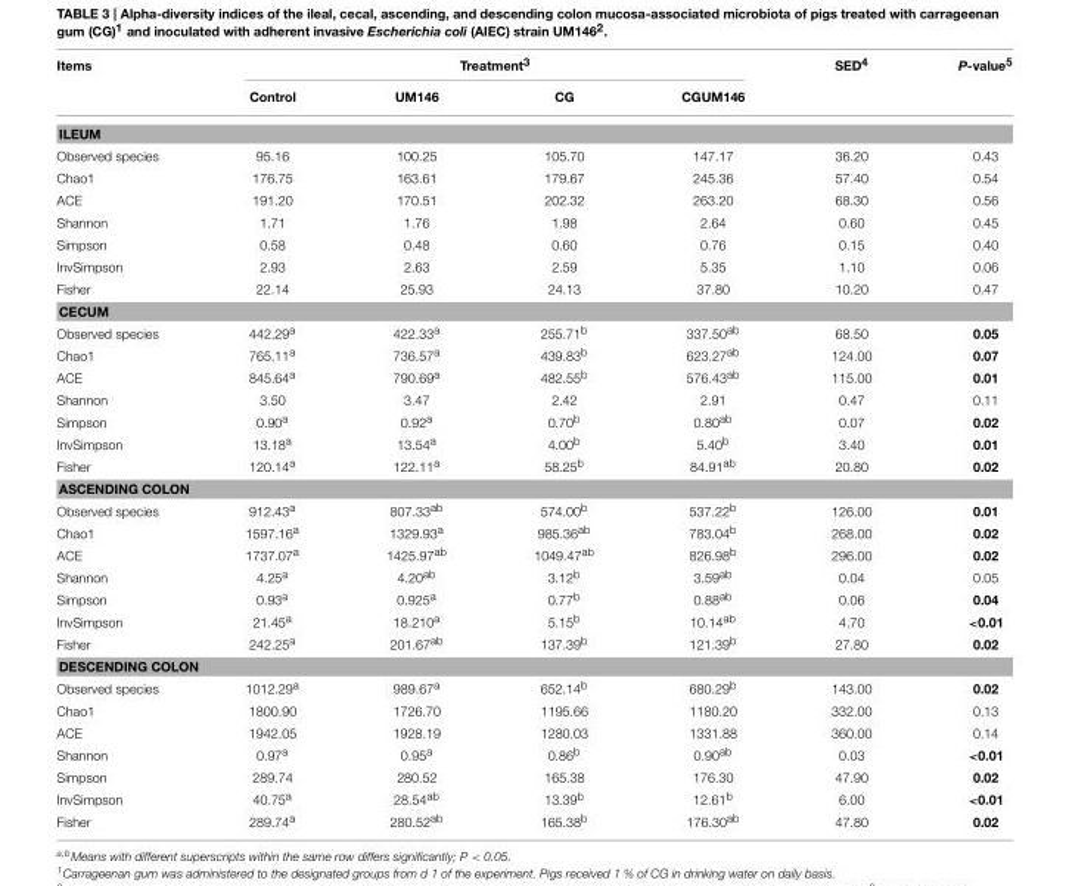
<table><thead><tr><td rowspan="2">Items</td><td colspan="4">Treatment<sup>3</sup></td><td rowspan="2">SED<sup>4</sup></td><td rowspan="2">P-value<sup>5</sup></td></tr><tr><td>Control</td><td>UM146</td><td>CG</td><td>CGUM146</td></tr></thead><tbody><tr><td colspan="7">ILEUM</td></tr><tr><td>Observed species</td><td>95.16</td><td>100.25</td><td>105.70</td><td>147.17</td><td>36.20</td><td>0.43</td></tr><tr><td>Chao1</td><td>176.75</td><td>163.61</td><td>179.67</td><td>245.36</td><td>57.40</td><td>0.54</td></tr><tr><td>ACE</td><td>191.20</td><td>170.51</td><td>202.32</td><td>263.20</td><td>68.30</td><td>0.56</td></tr><tr><td>Shannon</td><td>1.71</td><td>1.76</td><td>1.98</td><td>2.64</td><td>0.60</td><td>0.45</td></tr><tr><td>Simpson</td><td>0.58</td><td>0.48</td><td>0.60</td><td>0.76</td><td>0.15</td><td>0.40</td></tr><tr><td>InvSimpson</td><td>2.93</td><td>2.63</td><td>2.59</td><td>5.35</td><td>1.10</td><td>0.06</td></tr><tr><td>Fisher</td><td>22.14</td><td>25.93</td><td>24.13</td><td>37.80</td><td>10.20</td><td>0.47</td></tr><tr><td colspan="7">CECUM</td></tr><tr><td>Observed species</td><td>442.29<sup>a</sup></td><td>422.33<sup>a</sup></td><td>255.71<sup>b</sup></td><td>337.50<sup>ab</sup></td><td>68.50</td><td>0.05</td></tr><tr><td>Chao1</td><td>765.11<sup>a</sup></td><td>736.57<sup>a</sup></td><td>439.83<sup>b</sup></td><td>623.27<sup>ab</sup></td><td>124.00</td><td>0.07</td></tr><tr><td>ACE</td><td>845.64<sup>a</sup></td><td>790.69<sup>a</sup></td><td>482.55<sup>b</sup></td><td>576.43<sup>ab</sup></td><td>115.00</td><td>0.01</td></tr><tr><td>Shannon</td><td>3.50</td><td>3.47</td><td>2.42</td><td>2.91</td><td>0.47</td><td>0.11</td></tr><tr><td>Simpson</td><td>0.90<sup>a</sup></td><td>0.92<sup>a</sup></td><td>0.70<sup>b</sup></td><td>0.80<sup>ab</sup></td><td>0.07</td><td>0.02</td></tr><tr><td>InvSimpson</td><td>13.18<sup>a</sup></td><td>13.54<sup>a</sup></td><td>4.00<sup>b</sup></td><td>5.40<sup>b</sup></td><td>3.40</td><td>0.01</td></tr><tr><td>Fisher</td><td>120.14<sup>a</sup></td><td>122.11<sup>a</sup></td><td>58.25<sup>b</sup></td><td>84.91<sup>ab</sup></td><td>20.80</td><td>0.02</td></tr><tr><td colspan="7">ASCENDING COLON</td></tr><tr><td>Observed species</td><td>912.43<sup>a</sup></td><td>807.33<sup>ab</sup></td><td>574.00<sup>b</sup></td><td>537.22<sup>b</sup></td><td>126.00</td><td>0.01</td></tr><tr><td>Chao1</td><td>1597.16<sup>a</sup></td><td>1329.93<sup>a</sup></td><td>985.36<sup>ab</sup></td><td>783.04<sup>b</sup></td><td>268.00</td><td>0.02</td></tr><tr><td>ACE</td><td>1737.07<sup>a</sup></td><td>1425.97<sup>ab</sup></td><td>1049.47<sup>ab</sup></td><td>826.98<sup>b</sup></td><td>296.00</td><td>0.02</td></tr><tr><td>Shannon</td><td>4.25<sup>a</sup></td><td>4.20<sup>ab</sup></td><td>3.12<sup>b</sup></td><td>3.59<sup>ab</sup></td><td>0.04</td><td>0.05</td></tr><tr><td>Simpson</td><td>0.93<sup>a</sup></td><td>0.925<sup>a</sup></td><td>0.77<sup>b</sup></td><td>0.88<sup>ab</sup></td><td>0.06</td><td>0.04</td></tr><tr><td>InvSimpson</td><td>21.45<sup>a</sup></td><td>18.210<sup>a</sup></td><td>5.15<sup>b</sup></td><td>10.14<sup>ab</sup></td><td>4.70</td><td>&lt;0.01</td></tr><tr><td>Fisher</td><td>242.25<sup>a</sup></td><td>201.67<sup>ab</sup></td><td>137.39<sup>b</sup></td><td>121.39<sup>b</sup></td><td>27.80</td><td>0.02</td></tr><tr><td colspan="7">DESCENDING COLON</td></tr><tr><td>Observed species</td><td>1012.29<sup>a</sup></td><td>989.67<sup>a</sup></td><td>652.14<sup>b</sup></td><td>680.29<sup>b</sup></td><td>143.00</td><td>0.02</td></tr><tr><td>Chao1</td><td>1800.90</td><td>1726.70</td><td>1195.66</td><td>1180.20</td><td>332.00</td><td>0.13</td></tr><tr><td>ACE</td><td>1942.05</td><td>1928.19</td><td>1280.03</td><td>1331.88</td><td>360.00</td><td>0.14</td></tr><tr><td>Shannon</td><td>0.97<sup>a</sup></td><td>0.95<sup>a</sup></td><td>0.86<sup>b</sup></td><td>0.90<sup>ab</sup></td><td>0.03</td><td>&lt;0.01</td></tr><tr><td>Simpson</td><td>289.74</td><td>280.52</td><td>165.38</td><td>176.30</td><td>47.90</td><td>0.02</td></tr><tr><td>InvSimpson</td><td>40.75<sup>a</sup></td><td>28.54<sup>ab</sup></td><td>13.39<sup>b</sup></td><td>12.61<sup>b</sup></td><td>6.00</td><td>&lt;0.01</td></tr><tr><td>Fisher</td><td>289.74<sup>a</sup></td><td>280.52<sup>ab</sup></td><td>165.38<sup>b</sup></td><td>176.30<sup>ab</sup></td><td>47.80</td><td>0.02</td></tr></tbody></table>